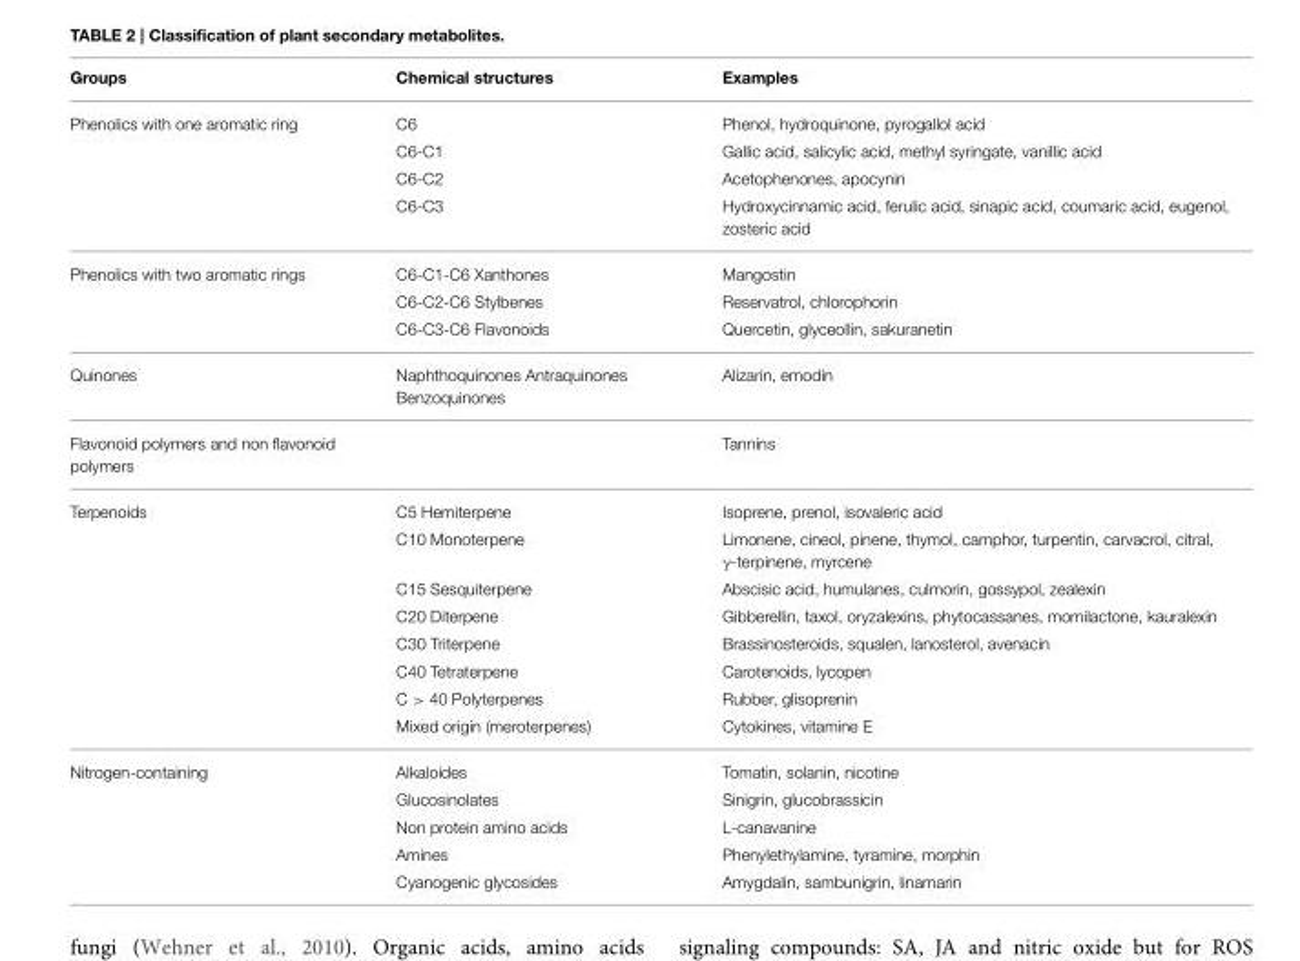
<table><thead><tr><td>Groups</td><td>Chemical structures</td><td>Examples</td></tr></thead><tbody><tr><td rowspan="4">Phenolics with one aromatic ring</td><td>C6</td><td>Phenol, hydroquinone, pyrogallol acid</td></tr><tr><td>C6-C1</td><td>Gallic acid, salicylic acid, methyl syringate, vanillic acid</td></tr><tr><td>C6-C2</td><td>Acetophenones, apocynin</td></tr><tr><td>C6-C3</td><td>Hydroxycinnamic acid, ferulic acid, sinapic acid, coumaric acid, eugenol, zosteric acid</td></tr><tr><td rowspan="3">Phenolics with two aromatic rings</td><td>C6-C1-C6 Xanthones</td><td>Mangostin</td></tr><tr><td>C6-C2-C6 Stylbenes</td><td>Reservatrol, chlorophorin</td></tr><tr><td>C6-C3-C6 Flavonoids</td><td>Quercetin, glyceollin, sakuranetin</td></tr><tr><td>Quinones</td><td>Naphthoquinones Antraquinones Benzoquinones</td><td>Alizarin, emodin</td></tr><tr><td>Flavonoid polymers and non flavonoid polymers</td><td></td><td>Tannins</td></tr><tr><td rowspan="8">Terpenoids</td><td>C5 Hemiterpene</td><td>Isoprene, prenol, isovaleric acid</td></tr><tr><td>C10 Monoterpene</td><td>Limonene, cineol, pinene, thymol, camphor, turpentin, carvacrol, citral, γ-terpinene, myrcene</td></tr><tr><td>C15 Sesquiterpene</td><td>Abscisic acid, humulanes, culmorin, gossypol, zealexin</td></tr><tr><td>C20 Diterpene</td><td>Gibberellin, taxol, oryzalexins, phytocassanes, momilactone, kauralexin</td></tr><tr><td>C30 Triterpene</td><td>Brassinosteroids, squalen, lanosterol, avenacin</td></tr><tr><td>C40 Tetraterpene</td><td>Carotenoids, lycopen</td></tr><tr><td>C &gt; 40 Polyterpenes</td><td>Rubber, glisoprenin</td></tr><tr><td>Mixed origin (meroterpenes)</td><td>Cytokines, vitamine E</td></tr><tr><td rowspan="5">Nitrogen-containing</td><td>Alkaloides</td><td>Tomatin, solanin, nicotine</td></tr><tr><td>Glucosinolates</td><td>Sinigrin, glucobrassicin</td></tr><tr><td>Non protein amino acids</td><td>L-canavanine</td></tr><tr><td>Amines</td><td>Phenylethylamine, tyramine, morphin</td></tr><tr><td>Cyanogenic glycosides</td><td>Amygdalin, sambunigrin, linamarin</td></tr></tbody></table>